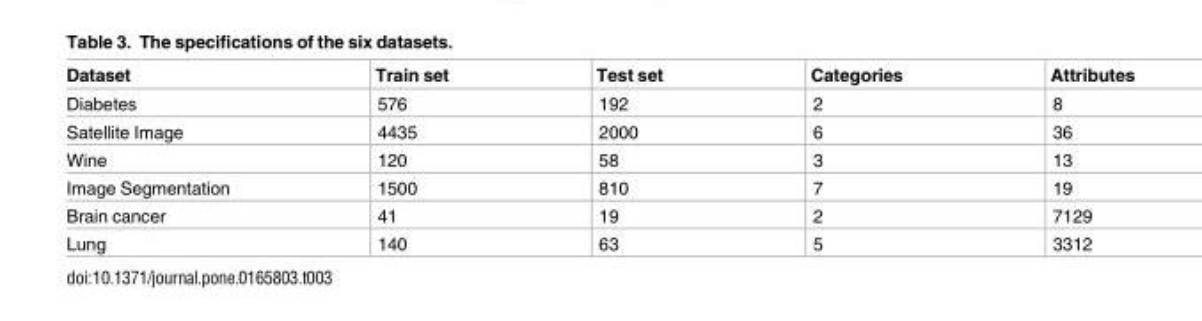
<table><thead><tr><td>Dataset</td><td>Train set</td><td>Test set</td><td>Categories</td><td>Attributes</td></tr></thead><tbody><tr><td>Diabetes</td><td>576</td><td>192</td><td>2</td><td>8</td></tr><tr><td>Satellite Image</td><td>4435</td><td>2000</td><td>6</td><td>36</td></tr><tr><td>Wine</td><td>120</td><td>58</td><td>3</td><td>13</td></tr><tr><td>Image Segmentation</td><td>1500</td><td>810</td><td>7</td><td>19</td></tr><tr><td>Brain cancer</td><td>41</td><td>19</td><td>2</td><td>7129</td></tr><tr><td>Lung</td><td>140</td><td>63</td><td>5</td><td>3312</td></tr></tbody></table>